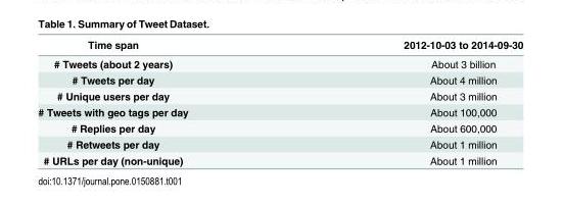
<table><thead><tr><td>Time span</td><td>2012-10-03 to 2014-09-30</td></tr></thead><tbody><tr><td># Tweets (about 2 years)</td><td>About 3 billion</td></tr><tr><td># Tweets per day</td><td>About 4 million</td></tr><tr><td># Unique users per day</td><td>About 3 million</td></tr><tr><td># Tweets with geo tags per day</td><td>About 100,000</td></tr><tr><td># Replies per day</td><td>About 600,000</td></tr><tr><td># Retweets per day</td><td>About 1 million</td></tr><tr><td># URLs per day (non-unique)</td><td>About 1 million</td></tr></tbody></table>